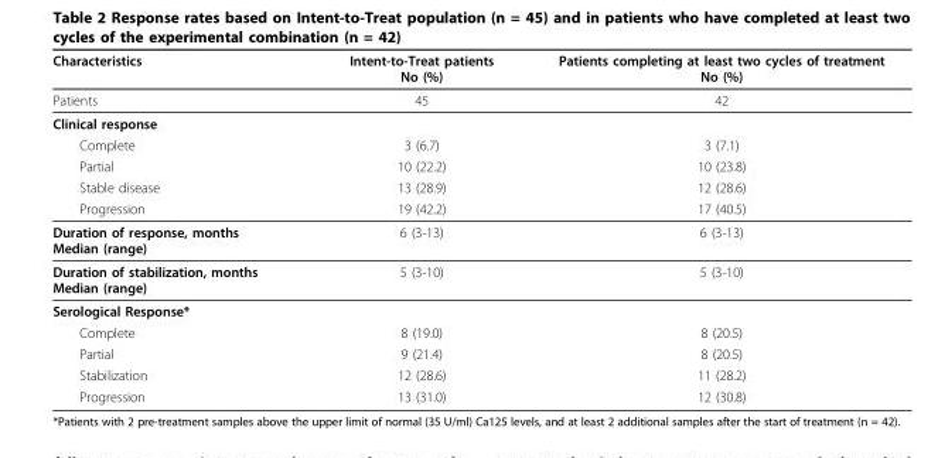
<table><thead><tr><td>Characteristics</td><td>Intent-to-Treat patients No (%)</td><td>Patients completing at least two cycles of treatment No (%)</td></tr></thead><tbody><tr><td>Patients</td><td>45</td><td>42</td></tr><tr><td colspan="3">Clinical response</td></tr><tr><td>Complete</td><td>3 (6.7)</td><td>3 (7.1)</td></tr><tr><td>Partial</td><td>10 (22.2)</td><td>10 (23.8)</td></tr><tr><td>Stable disease</td><td>13 (28.9)</td><td>12 (28.6)</td></tr><tr><td>Progression</td><td>19 (42.2)</td><td>17 (40.5)</td></tr><tr><td>Duration of response, months Median (range)</td><td>6 (3-13)</td><td>6 (3-13)</td></tr><tr><td>Duration of stabilization, months Median (range)</td><td>5 (3-10)</td><td>5 (3-10)</td></tr><tr><td colspan="3">Serological Response*</td></tr><tr><td>Complete</td><td>8 (19.0)</td><td>8 (20.5)</td></tr><tr><td>Partial</td><td>9 (21.4)</td><td>8 (20.5)</td></tr><tr><td>Stabilization</td><td>12 (28.6)</td><td>11 (28.2)</td></tr><tr><td>Progression</td><td>13 (31.0)</td><td>12 (30.8)</td></tr></tbody></table>